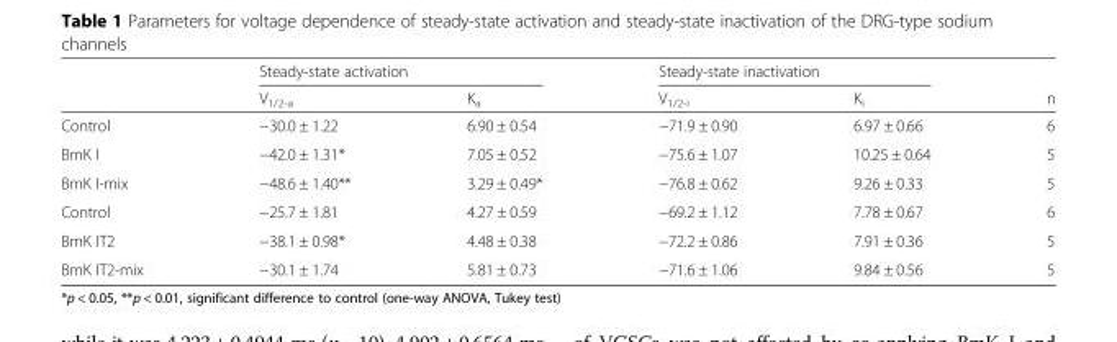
<table><thead><tr><td rowspan="2"></td><td colspan="2">Steady-state activation</td><td colspan="2">Steady-state inactivation</td><td rowspan="2">n</td></tr><tr><td>V<sub>1/2-a</sub></td><td>K<sub>a</sub></td><td>V<sub>1/2-i</sub></td><td>K<sub>i</sub></td></tr></thead><tbody><tr><td>Control</td><td>−30.0 ± 1.22</td><td>6.90 ± 0.54</td><td>−71.9 ± 0.90</td><td>6.97 ± 0.66</td><td>6</td></tr><tr><td>BmK I</td><td>−42.0 ± 1.31*</td><td>7.05 ± 0.52</td><td>−75.6 ± 1.07</td><td>10.25 ± 0.64</td><td>5</td></tr><tr><td>BmK I-mix</td><td>−48.6 ± 1.40**</td><td>3.29 ± 0.49*</td><td>−76.8 ± 0.62</td><td>9.26 ± 0.33</td><td>5</td></tr><tr><td>Control</td><td>−25.7 ± 1.81</td><td>4.27 ± 0.59</td><td>−69.2 ± 1.12</td><td>7.78 ± 0.67</td><td>6</td></tr><tr><td>BmK IT2</td><td>−38.1 ± 0.98*</td><td>4.48 ± 0.38</td><td>−72.2 ± 0.86</td><td>7.91 ± 0.36</td><td>5</td></tr><tr><td>BmK IT2-mix</td><td>−30.1 ± 1.74</td><td>5.81 ± 0.73</td><td>−71.6 ± 1.06</td><td>9.84 ± 0.56</td><td>5</td></tr></tbody></table>